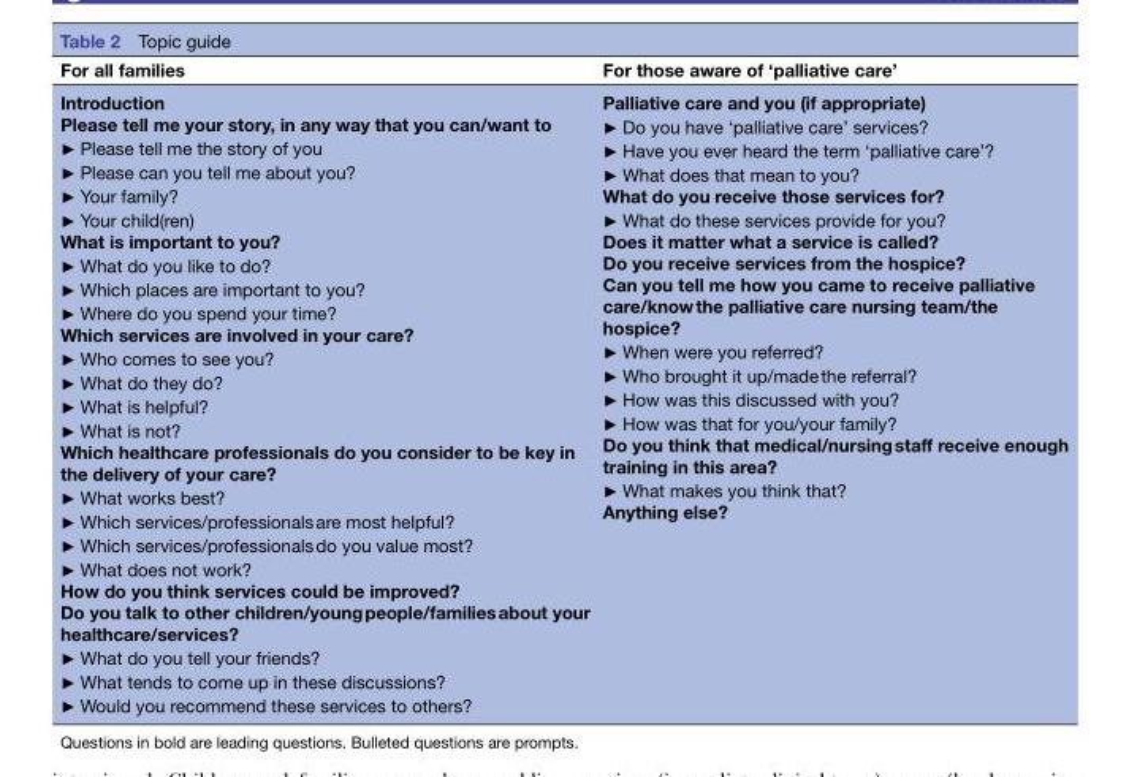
<table><thead><tr><td>For all families</td><td>For those aware of ‘palliative care’</td></tr></thead><tbody><tr><td>Introduction Please tell me your story, in any way that you can/want to ► Please tell me the story of you ► Please can you tell me about you? ► Your family? ► Your child(ren) What is important to you? ► What do you like to do? ► Which places are important to you? ► Where do you spend your time? Which services are involved in your care? ► Who comes to see you? ► What do they do? ► What is helpful? ► What is not? Which healthcare professionals do you consider to be key in the delivery of your care? ► What works best? ► Which services/professionals are most helpful? ► Which services/professionals do you value most? ► What does not work? How do you think services could be improved? Do you talk to other children/young people/families about your healthcare/services? ► What do you tell your friends? ► What tends to come up in these discussions? ► Would you recommend these services to others?</td><td>Palliative care and you (if appropriate) ► Do you have ‘palliative care’ services? ► Have you ever heard the term ‘palliative care’? ► What does that mean to you? What do you receive those services for? ► What do these services provide for you? Does it matter what a service is called? Do you receive services from the hospice? Can you tell me how you came to receive palliative care/know the palliative care nursing team/the hospice? ► When were you referred? ► Who brought it up/made the referral? ► How was this discussed with you? ► How was that for you/your family? Do you think that medical/nursing staff receive enough training in this area? ► What makes you think that? Anything else?</td></tr></tbody></table>